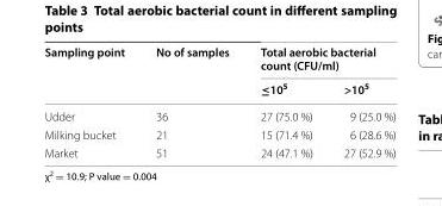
<table><thead><tr><td rowspan="2">Sampling point</td><td rowspan="2">No of samples</td><td colspan="2">Total aerobic bacterial count (CFU/ml)</td></tr><tr><td>≤10<sup>5</sup></td><td>&gt;10<sup>5</sup></td></tr></thead><tbody><tr><td>Udder</td><td>36</td><td>27 (75.0 %)</td><td>9 (25.0 %)</td></tr><tr><td>Milking bucket</td><td>21</td><td>15 (71.4 %)</td><td>6 (28.6 %)</td></tr><tr><td>Market</td><td>51</td><td>24 (47.1 %)</td><td>27 (52.9 %)</td></tr></tbody></table>